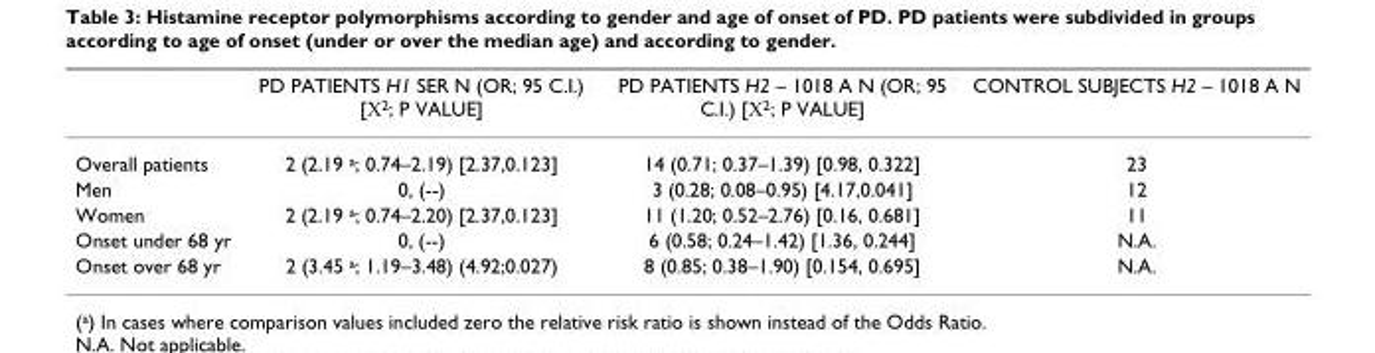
<table><thead><tr><td></td><td>PD PATIENTS H1 SER N (OR; 95 C.I.) [Χ<sup>2</sup>; P VALUE]</td><td>PD PATIENTS H2 – 1018 A N (OR; 95 C.I.) [Χ<sup>2</sup>; P VALUE]</td><td>CONTROL SUBJECTS H2 – 1018 A N</td></tr></thead><tbody><tr><td>Overall patients</td><td>2 (2.19 <sup>a</sup>; 0.74–2.19) [2.37,0.123]</td><td>14 (0.71; 0.37–1.39) [0.98, 0.322]</td><td>23</td></tr><tr><td>Men</td><td>0, (--)</td><td>3 (0.28; 0.08–0.95) [4.17,0.041]</td><td>12</td></tr><tr><td>Women</td><td>2 (2.19 <sup>a</sup>; 0.74–2.20) [2.37,0.123]</td><td>11 (1.20; 0.52–2.76) [0.16, 0.681]</td><td>11</td></tr><tr><td>Onset under 68 yr</td><td>0, (--)</td><td>6 (0.58; 0.24–1.42) [1.36, 0.244]</td><td>N.A.</td></tr><tr><td>Onset over 68 yr</td><td>2 (3.45 <sup>a</sup>; 1.19–3.48) (4.92;0.027)</td><td>8 (0.85; 0.38–1.90) [0.154, 0.695]</td><td>N.A.</td></tr></tbody></table>